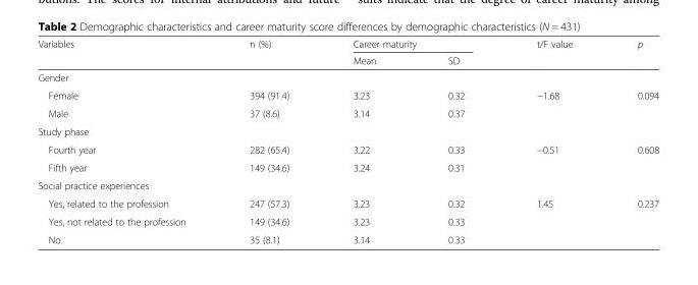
<table><thead><tr><td rowspan="2">Variables</td><td rowspan="2">n (%)</td><td colspan="2">Career maturity</td><td rowspan="2">t/F value</td><td rowspan="2">p</td></tr><tr><td>Mean</td><td>SD</td></tr></thead><tbody><tr><td colspan="6">Gender</td></tr><tr><td>Female</td><td>394 (91.4)</td><td>3.23</td><td>0.32</td><td>−1.68</td><td>0.094</td></tr><tr><td>Male</td><td>37 (8.6)</td><td>3.14</td><td>0.37</td><td></td><td></td></tr><tr><td colspan="6">Study phase</td></tr><tr><td>Fourth year</td><td>282 (65.4)</td><td>3.22</td><td>0.33</td><td>−0.51</td><td>0.608</td></tr><tr><td>Fifth year</td><td>149 (34.6)</td><td>3.24</td><td>0.31</td><td></td><td></td></tr><tr><td colspan="6">Social practice experiences</td></tr><tr><td>Yes, related to the profession</td><td>247 (57.3)</td><td>3.23</td><td>0.32</td><td>1.45</td><td>0.237</td></tr><tr><td>Yes, not related to the profession</td><td>149 (34.6)</td><td>3.23</td><td>0.33</td><td></td><td></td></tr><tr><td>No</td><td>35 (8.1)</td><td>3.14</td><td>0.33</td><td></td><td></td></tr></tbody></table>